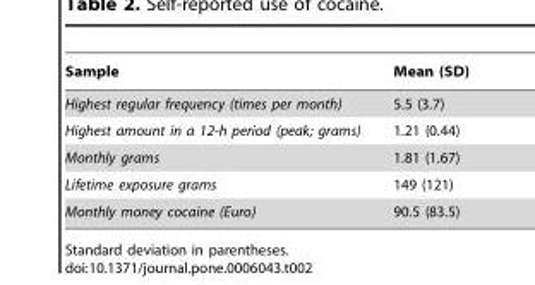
<table><thead><tr><td>Sample</td><td>Mean (SD)</td></tr></thead><tbody><tr><td>Highest regular frequency (times per month)</td><td>5.5 (3.7)</td></tr><tr><td>Highest amount in a 12-h period (peak; grams)</td><td>1.21 (0.44)</td></tr><tr><td>Monthly grams</td><td>1.81 (1.67)</td></tr><tr><td>Lifetime exposure grams</td><td>149 (121)</td></tr><tr><td>Monthly money cocaine (Euro)</td><td>90.5 (83.5)</td></tr></tbody></table>